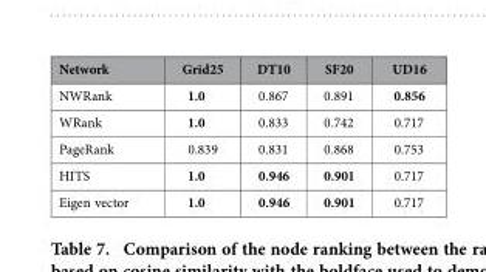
<table><thead><tr><td>Network</td><td>Grid25</td><td>DT10</td><td>SF20</td><td>UD16</td></tr></thead><tbody><tr><td>NWRank</td><td>1.0</td><td>0.867</td><td>0.891</td><td>0.856</td></tr><tr><td>WRank</td><td>1.0</td><td>0.833</td><td>0.742</td><td>0.717</td></tr><tr><td>PageRank</td><td>0.839</td><td>0.831</td><td>0.868</td><td>0.753</td></tr><tr><td>HITS</td><td>1.0</td><td>0.946</td><td>0.901</td><td>0.717</td></tr><tr><td>Eigen vector</td><td>1.0</td><td>0.946</td><td>0.901</td><td>0.717</td></tr></tbody></table>